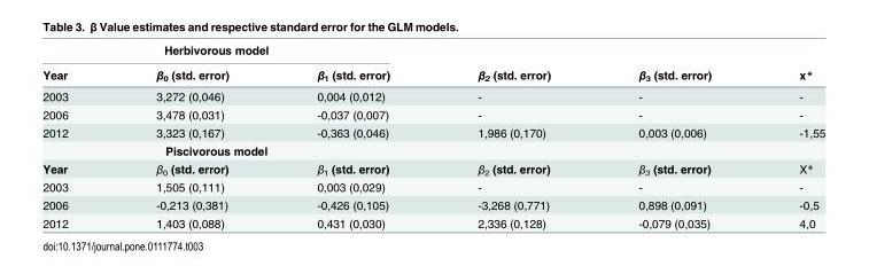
<table><thead><tr><td colspan="3">Herbivorous model</td><td rowspan="2">β2 (std. error)</td><td rowspan="2">β<sub>3</sub> (std. error)</td><td rowspan="2">x*</td></tr><tr><td>Year</td><td>β<sub>0</sub> (std. error)</td><td>β1 (std. error)</td></tr></thead><tbody><tr><td>2003</td><td>3,272 (0,046)</td><td>0,004 (0,012)</td><td>-</td><td>-</td><td>-</td></tr><tr><td>2006</td><td>3,478 (0,031)</td><td>-0,037 (0,007)</td><td>-</td><td>-</td><td>-</td></tr><tr><td>2012</td><td>3,323 (0,167)</td><td>-0,363 (0,046)</td><td>1,986 (0,170)</td><td>0,003 (0,006)</td><td>-1,55</td></tr><tr><td colspan="6">Piscivorous model</td></tr><tr><td>Year</td><td>β<sub>0</sub> (std. error)</td><td>β<sub>1</sub> (std. error)</td><td>β<sub>2</sub> (std. error)</td><td>β<sub>3</sub> (std. error)</td><td>X*</td></tr><tr><td>2003</td><td>1,505 (0,111)</td><td>0,003 (0,029)</td><td>-</td><td>-</td><td>-</td></tr><tr><td>2006</td><td>-0,213 (0,381)</td><td>-0,426 (0,105)</td><td>-3,268 (0,771)</td><td>0,898 (0,091)</td><td>-0,5</td></tr><tr><td>2012</td><td>1,403 (0,088)</td><td>0,431 (0,030)</td><td>2,336 (0,128)</td><td>-0,079 (0,035)</td><td>4,0</td></tr></tbody></table>